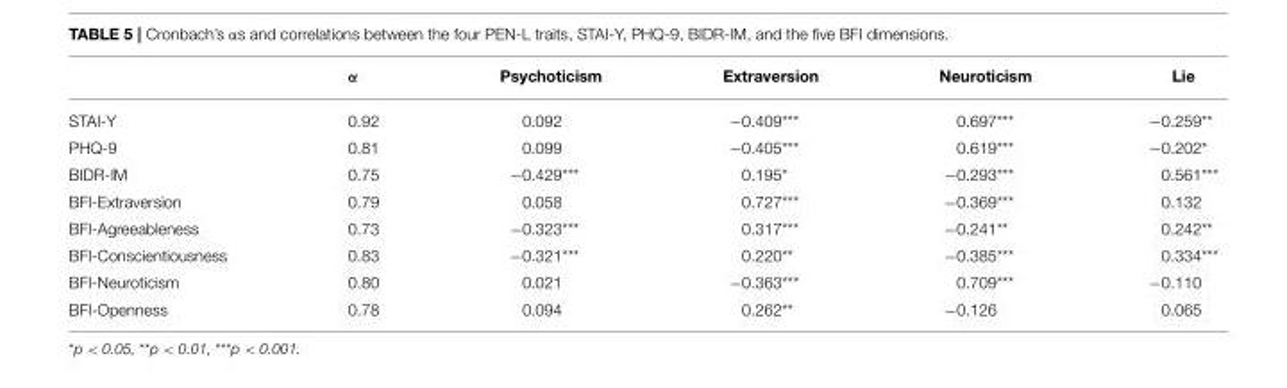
<table><thead><tr><td></td><td>α</td><td>Psychoticism</td><td>Extraversion</td><td>Neuroticism</td><td>Lie</td></tr></thead><tbody><tr><td>STAI-Y</td><td>0.92</td><td>0.092</td><td>−0.409***</td><td>0.697***</td><td>−0.259**</td></tr><tr><td>PHQ-9</td><td>0.81</td><td>0.099</td><td>−0.405***</td><td>0.619***</td><td>−0.202*</td></tr><tr><td>BIDR-IM</td><td>0.75</td><td>−0.429***</td><td>0.195*</td><td>−0.293***</td><td>0.561***</td></tr><tr><td>BFI-Extraversion</td><td>0.79</td><td>0.058</td><td>0.727***</td><td>−0.369***</td><td>0.132</td></tr><tr><td>BFI-Agreeableness</td><td>0.73</td><td>−0.323***</td><td>0.317***</td><td>−0.241**</td><td>0.242**</td></tr><tr><td>BFI-Conscientiousness</td><td>0.83</td><td>−0.321***</td><td>0.220**</td><td>−0.385***</td><td>0.334***</td></tr><tr><td>BFI-Neuroticism</td><td>0.80</td><td>0.021</td><td>−0.363***</td><td>0.709***</td><td>−0.110</td></tr><tr><td>BFI-Openness</td><td>0.78</td><td>0.094</td><td>0.262**</td><td>−0.126</td><td>0.065</td></tr></tbody></table>